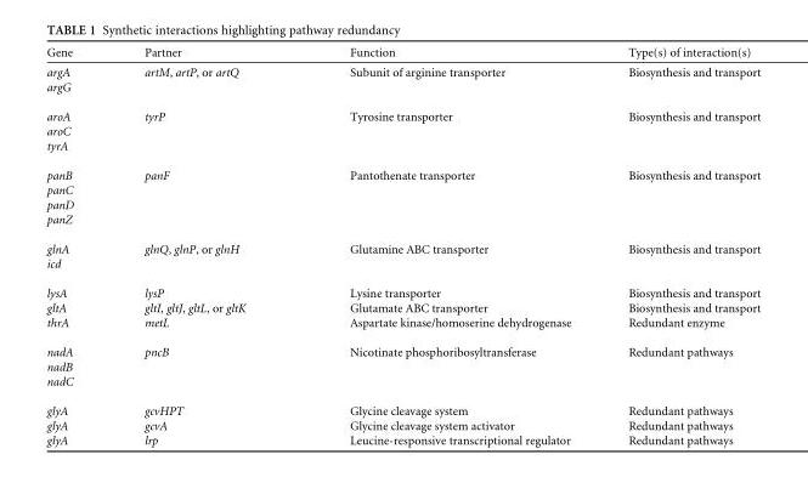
<table><thead><tr><td>Gene</td><td>Partner</td><td>Function</td><td>Type(s) of interaction(s)</td></tr></thead><tbody><tr><td>argA</td><td>artM, artP, or artQ</td><td>Subunit of arginine transporter</td><td>Biosynthesis and transport</td></tr><tr><td colspan="4">argG</td></tr><tr><td>aroA</td><td>tyrP</td><td>Tyrosine transporter</td><td>Biosynthesis and transport</td></tr><tr><td colspan="4">aroC</td></tr><tr><td colspan="4">tyrA</td></tr><tr><td>panB</td><td>panF</td><td>Pantothenate transporter</td><td>Biosynthesis and transport</td></tr><tr><td colspan="4">panC</td></tr><tr><td colspan="4">panD</td></tr><tr><td colspan="4">panZ</td></tr><tr><td>glnA</td><td>glnQ, glnP, or glnH</td><td>Glutamine ABC transporter</td><td>Biosynthesis and transport</td></tr><tr><td colspan="4">icd</td></tr><tr><td>lysA</td><td>lysP</td><td>Lysine transporter</td><td>Biosynthesis and transport</td></tr><tr><td>gltA</td><td>gltI, gltJ, gltL, or gltK</td><td>Glutamate ABC transporter</td><td>Biosynthesis and transport</td></tr><tr><td>thrA</td><td>metL</td><td>Aspartate kinase/homoserine dehydrogenase</td><td>Redundant enzyme</td></tr><tr><td>nadA</td><td>pncB</td><td>Nicotinate phosphoribosyltransferase</td><td>Redundant pathways</td></tr><tr><td colspan="4">nadB</td></tr><tr><td colspan="4">nadC</td></tr><tr><td>glyA</td><td>gcvHPT</td><td>Glycine cleavage system</td><td>Redundant pathways</td></tr><tr><td>glyA</td><td>gcvA</td><td>Glycine cleavage system activator</td><td>Redundant pathways</td></tr><tr><td>glyA</td><td>lrp</td><td>Leucine-responsive transcriptional regulator</td><td>Redundant pathways</td></tr></tbody></table>